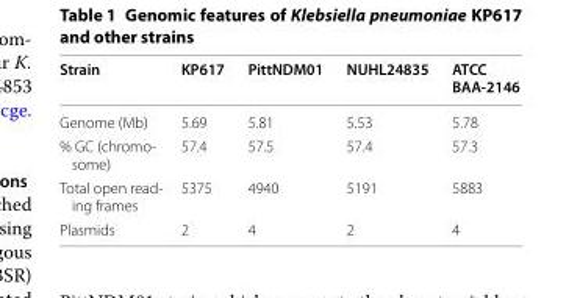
<table><thead><tr><td>Strain</td><td>KP617</td><td>PittNDM01</td><td>NUHL24835</td><td>ATCC BAA‑2146</td></tr></thead><tbody><tr><td>Genome (Mb)</td><td>5.69</td><td>5.81</td><td>5.53</td><td>5.78</td></tr><tr><td>% GC (chromo‑ some)</td><td>57.4</td><td>57.5</td><td>57.4</td><td>57.3</td></tr><tr><td>Total open read‑ ing frames</td><td>5375</td><td>4940</td><td>5191</td><td>5883</td></tr><tr><td>Plasmids</td><td>2</td><td>4</td><td>2</td><td>4</td></tr></tbody></table>